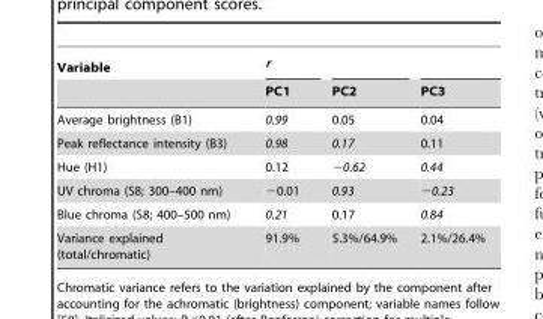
<table><thead><tr><td rowspan="2">Variable</td><td rowspan="2">r PC1</td><td rowspan="2">PC2</td><td rowspan="2">PC3</td></tr><tr></tr></thead><tbody><tr><td>Average brightness (B1)</td><td>0.99</td><td>0.05</td><td>0.04</td></tr><tr><td>Peak reflectance intensity (B3)</td><td>0.98</td><td>0.17</td><td>0.11</td></tr><tr><td>Hue (H1)</td><td>0.12</td><td>−0.62</td><td>0.44</td></tr><tr><td>UV chroma (S8; 300–400 nm)</td><td>−0.01</td><td>0.93</td><td>−0.23</td></tr><tr><td>Blue chroma (S8; 400–500 nm)</td><td>0.21</td><td>0.17</td><td>0.84</td></tr><tr><td>Variance explained (total/chromatic)</td><td>91.9%</td><td>5.3%/64.9%</td><td>2.1%/26.4%</td></tr></tbody></table>